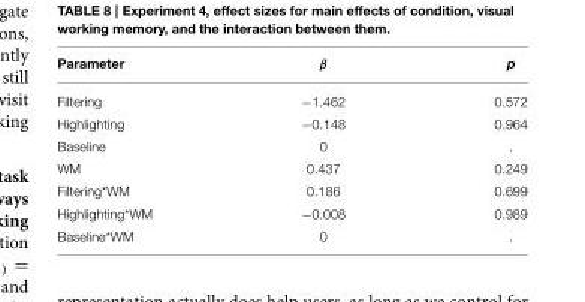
<table><thead><tr><td>Parameter</td><td>β</td><td>p</td></tr></thead><tbody><tr><td>Filtering</td><td>−1.462</td><td>0.572</td></tr><tr><td>Highlighting</td><td>−0.148</td><td>0.964</td></tr><tr><td>Baseline</td><td>0</td><td>.</td></tr><tr><td>WM</td><td>0.437</td><td>0.249</td></tr><tr><td>Filtering*WM</td><td>0.186</td><td>0.699</td></tr><tr><td>Highlighting*WM</td><td>−0.008</td><td>0.989</td></tr><tr><td>Baseline*WM</td><td>0</td><td>.</td></tr></tbody></table>